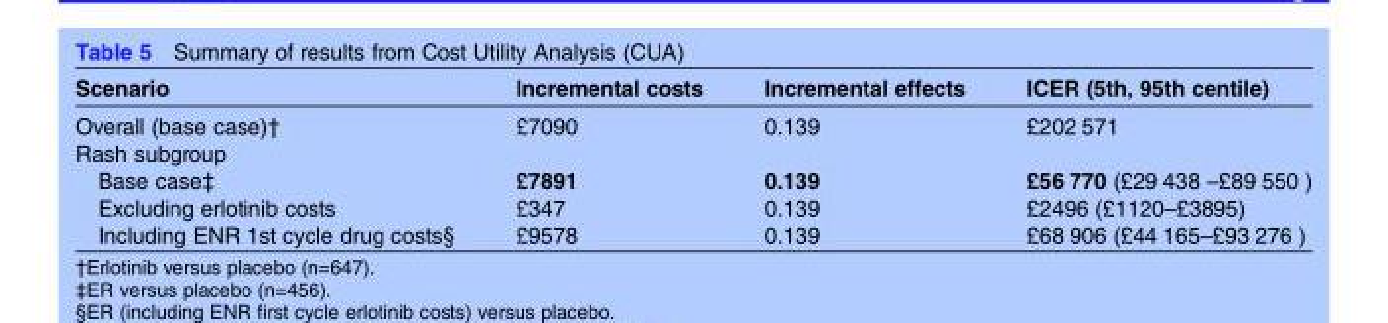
<table><thead><tr><td>Scenario</td><td>Incremental costs</td><td>Incremental effects</td><td>ICER (5th, 95th centile)</td></tr></thead><tbody><tr><td>Overall (base case)†</td><td>£7090</td><td>0.139</td><td>£202 571</td></tr><tr><td colspan="4">Rash subgroup</td></tr><tr><td>Base case‡</td><td>£7891</td><td>0.139</td><td>£56 770 (£29 438 –£89 550 )</td></tr><tr><td>Excluding erlotinib costs</td><td>£347</td><td>0.139</td><td>£2496 (£1120–£3895)</td></tr><tr><td>Including ENR 1st cycle drug costs§</td><td>£9578</td><td>0.139</td><td>£68 906 (£44 165–£93 276 )</td></tr></tbody></table>